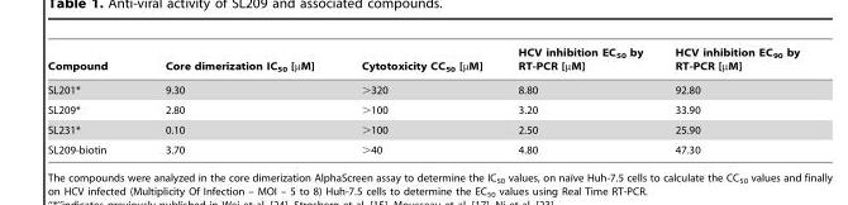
<table><thead><tr><td>Compound</td><td>Core dimerization IC<sub>50</sub> [µM]</td><td>Cytotoxicity CC<sub>50</sub> [µM]</td><td>HCV inhibition EC<sub>50</sub> by RT-PCR [µM]</td><td>HCV inhibition EC<sub>90</sub> by RT-PCR [µM]</td></tr></thead><tbody><tr><td>SL201*</td><td>9.30</td><td>&gt;320</td><td>8.80</td><td>92.80</td></tr><tr><td>SL209*</td><td>2.80</td><td>&gt;100</td><td>3.20</td><td>33.90</td></tr><tr><td>SL231*</td><td>0.10</td><td>&gt;100</td><td>2.50</td><td>25.90</td></tr><tr><td>SL209-biotin</td><td>3.70</td><td>&gt;40</td><td>4.80</td><td>47.30</td></tr></tbody></table>